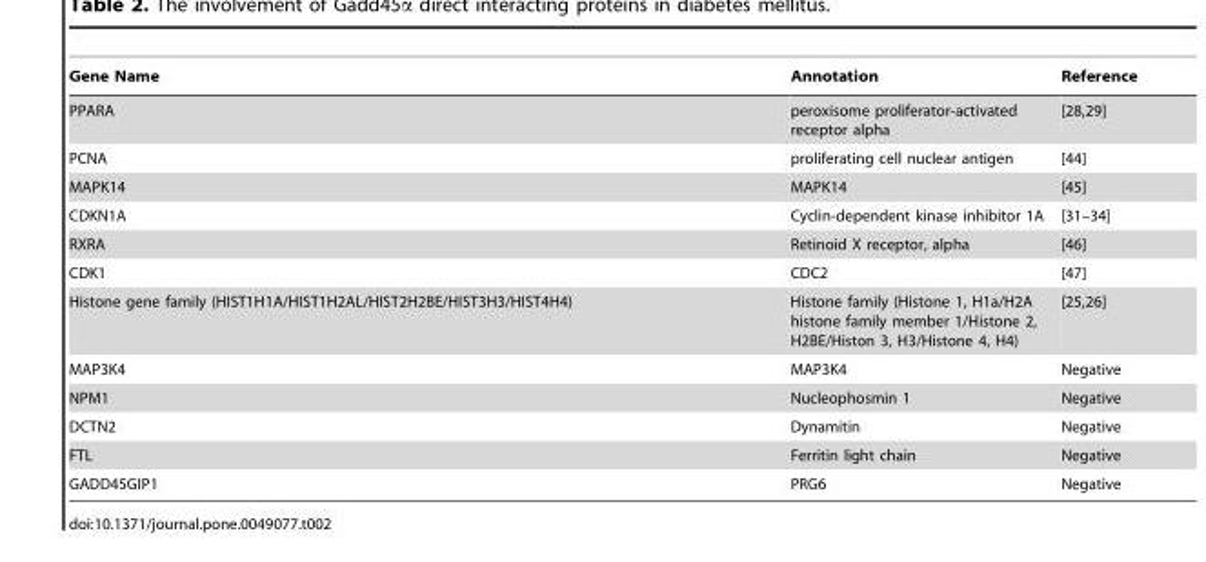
<table><thead><tr><td>Gene Name</td><td>Annotation</td><td>Reference</td></tr></thead><tbody><tr><td>PPARA</td><td>peroxisome proliferator-activated receptor alpha</td><td>[28,29]</td></tr><tr><td>PCNA</td><td>proliferating cell nuclear antigen</td><td>[44]</td></tr><tr><td>MAPK14</td><td>MAPK14</td><td>[45]</td></tr><tr><td>CDKN1A</td><td>Cyclin-dependent kinase inhibitor 1A</td><td>[31–34]</td></tr><tr><td>RXRA</td><td>Retinoid X receptor, alpha</td><td>[46]</td></tr><tr><td>CDK1</td><td>CDC2</td><td>[47]</td></tr><tr><td>Histone gene family (HIST1H1A/HIST1H2AL/HIST2H2BE/HIST3H3/HIST4H4)</td><td>Histone family (Histone 1, H1a/H2A histone family member 1/Histone 2, H2BE/Histon 3, H3/Histone 4, H4)</td><td>[25,26]</td></tr><tr><td>MAP3K4</td><td>MAP3K4</td><td>Negative</td></tr><tr><td>NPM1</td><td>Nucleophosmin 1</td><td>Negative</td></tr><tr><td>DCTN2</td><td>Dynamitin</td><td>Negative</td></tr><tr><td>FTL</td><td>Ferritin light chain</td><td>Negative</td></tr><tr><td>GADD45GIP1</td><td>PRG6</td><td>Negative</td></tr></tbody></table>